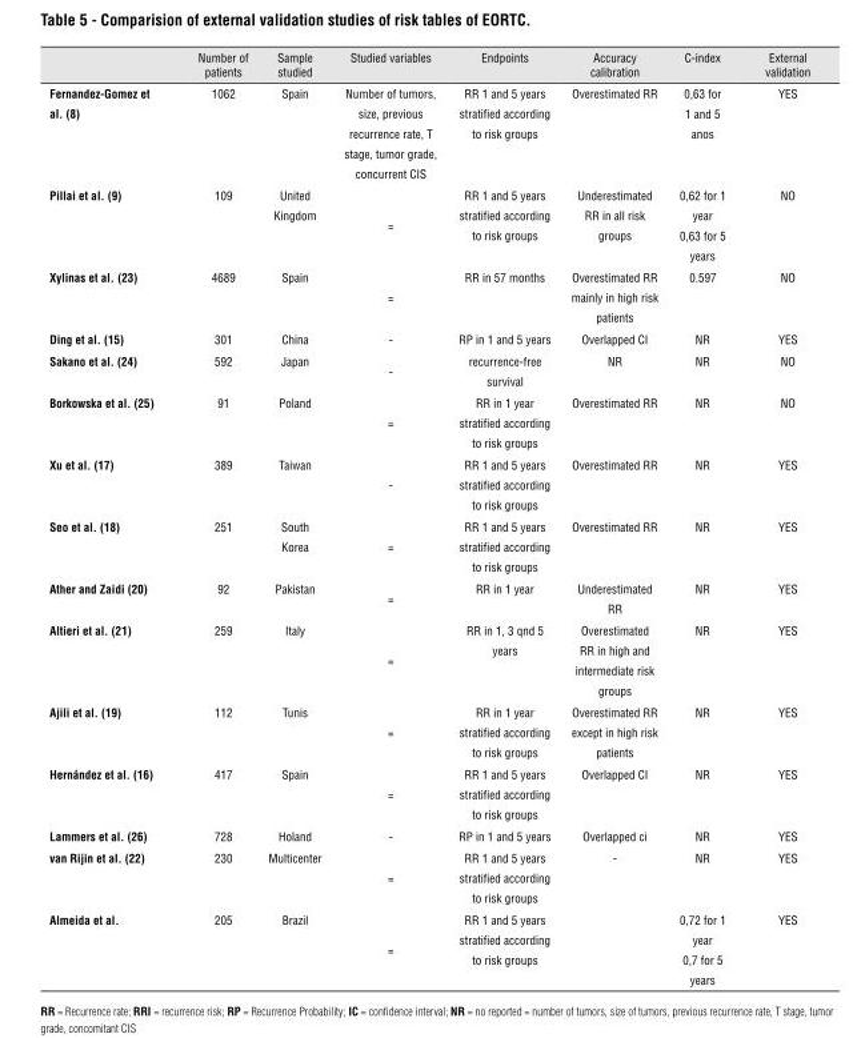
<table><thead><tr><td></td><td>Number of patients</td><td>Sample studied</td><td>Studied variables</td><td>Endpoints</td><td>Accuracy calibration</td><td>C-index</td><td>External validation</td></tr></thead><tbody><tr><td>Fernandez-Gomez et al. (8)</td><td>1062</td><td>Spain</td><td>Number of tumors, size, previous recurrence rate, T stage, tumor grade, concurrent CIS</td><td>RR 1 and 5 years stratified according to risk groups</td><td>Overestimated RR</td><td>0,63 for 1 and 5 anos</td><td>YES</td></tr><tr><td>Pillai et al. (9)</td><td>109</td><td>United Kingdom</td><td>=</td><td>RR 1 and 5 years stratified according to risk groups</td><td>Underestimated RR in all risk groups</td><td>0,62 for 1 year 0,63 for 5 years</td><td>NO</td></tr><tr><td>Xylinas et al. (23)</td><td>4689</td><td>Spain</td><td>=</td><td>RR in 57 months</td><td>Overestimated RR mainly in high risk patients</td><td>0.597</td><td>NO</td></tr><tr><td>Ding et al. (15)</td><td>301</td><td>China</td><td>-</td><td>RP in 1 and 5 years</td><td>Overlapped CI</td><td>NR</td><td>YES</td></tr><tr><td>Sakano et al. (24)</td><td>592</td><td>Japan</td><td>-</td><td>recurrence-free survival</td><td>NR</td><td>NR</td><td>NO</td></tr><tr><td>Borkowska et al. (25)</td><td>91</td><td>Poland</td><td>=</td><td>RR in 1 year stratified according to risk groups</td><td>Overestimated RR</td><td>NR</td><td>NO</td></tr><tr><td>Xu et al. (17)</td><td>389</td><td>Taiwan</td><td>-</td><td>RR 1 and 5 years stratified according to risk groups</td><td>Overestimated RR</td><td>NR</td><td>YES</td></tr><tr><td>Seo et al. (18)</td><td>251</td><td>South Korea</td><td>=</td><td>RR 1 and 5 years stratified according to risk groups</td><td>Overestimated RR</td><td>NR</td><td>YES</td></tr><tr><td>Ather and Zaidi (20)</td><td>92</td><td>Pakistan</td><td>=</td><td>RR in 1 year</td><td>Underestimated RR</td><td>NR</td><td>YES</td></tr><tr><td>Altieri et al. (21)</td><td>259</td><td>Italy</td><td>=</td><td>RR in 1, 3 qnd 5 years</td><td>Overestimated RR in high and intermediate risk groups</td><td>NR</td><td>YES</td></tr><tr><td>Ajili et al. (19)</td><td>112</td><td>Tunis</td><td>=</td><td>RR in 1 year stratified according to risk groups</td><td>Overestimated RR except in high risk patients</td><td>NR</td><td>YES</td></tr><tr><td>Hernández et al. (16)</td><td>417</td><td>Spain</td><td>=</td><td>RR 1 and 5 years stratified according to risk groups</td><td>Overlapped CI</td><td>NR</td><td>YES</td></tr><tr><td>Lammers et al. (26)</td><td>728</td><td>Holand</td><td>-</td><td>RP in 1 and 5 years</td><td>Overlapped ci</td><td>NR</td><td>YES</td></tr><tr><td>van Rijin et al. (22)</td><td>230</td><td>Multicenter</td><td>=</td><td>RR 1 and 5 years stratified according to risk groups</td><td>-</td><td>NR</td><td>YES</td></tr><tr><td>Almeida et al.</td><td>205</td><td>Brazil</td><td>=</td><td>RR 1 and 5 years stratified according to risk groups</td><td></td><td>0,72 for 1 year 0,7 for 5 years</td><td>YES</td></tr></tbody></table>